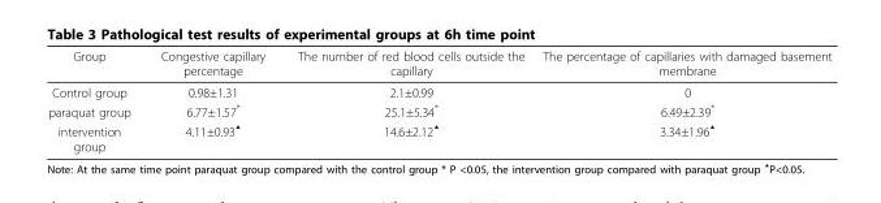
<table><thead><tr><td>Group</td><td>Congestive capillary percentage</td><td>The number of red blood cells outside the capillary</td><td>The percentage of capillaries with damaged basement membrane</td></tr></thead><tbody><tr><td>Control group</td><td>0.98±1.31</td><td>2.1±0.99</td><td>0</td></tr><tr><td>paraquat group</td><td>6.77±1.57*</td><td>25.1±5.34*</td><td>6.49±2.39*</td></tr><tr><td>intervention group</td><td>4.11±0.93<sup>▲</sup></td><td>14.6±2.12<sup>▲</sup></td><td>3.34±1.96<sup>▲</sup></td></tr></tbody></table>